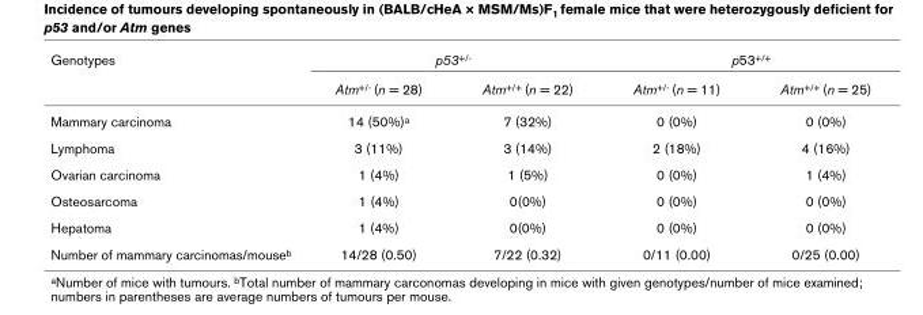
<table><thead><tr><td rowspan="2">Genotypes</td><td colspan="2">p53+/-</td><td colspan="2">p53+/+</td></tr><tr><td>Atm+/- (n = 28)</td><td>Atm+/+ (n = 22)</td><td>Atm+/- (n = 11)</td><td>Atm+/+ (n = 25)</td></tr></thead><tbody><tr><td>Mammary carcinoma</td><td>14 (50%)a</td><td>7 (32%)</td><td>0 (0%)</td><td>0 (0%)</td></tr><tr><td>Lymphoma</td><td>3 (11%)</td><td>3 (14%)</td><td>2 (18%)</td><td>4 (16%)</td></tr><tr><td>Ovarian carcinoma</td><td>1 (4%)</td><td>1 (5%)</td><td>0 (0%)</td><td>1 (4%)</td></tr><tr><td>Osteosarcoma</td><td>1 (4%)</td><td>0(0%)</td><td>0 (0%)</td><td>0 (0%)</td></tr><tr><td>Hepatoma</td><td>1 (4%)</td><td>0(0%)</td><td>0 (0%)</td><td>0 (0%)</td></tr><tr><td>Number of mammary carcinomas/mouseb</td><td>14/28 (0.50)</td><td>7/22 (0.32)</td><td>0/11 (0.00)</td><td>0/25 (0.00)</td></tr></tbody></table>